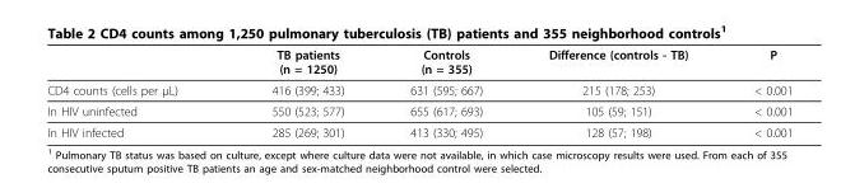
<table><thead><tr><td></td><td>TB patients (n = 1250)</td><td>Controls (n = 355)</td><td>Difference (controls - TB)</td><td>P</td></tr></thead><tbody><tr><td>CD4 counts (cells per μL)</td><td>416 (399; 433)</td><td>631 (595; 667)</td><td>215 (178; 253)</td><td>&lt; 0.001</td></tr><tr><td>In HIV uninfected</td><td>550 (523; 577)</td><td>655 (617; 693)</td><td>105 (59; 151)</td><td>&lt; 0.001</td></tr><tr><td>In HIV infected</td><td>285 (269; 301)</td><td>413 (330; 495)</td><td>128 (57; 198)</td><td>&lt; 0.001</td></tr></tbody></table>